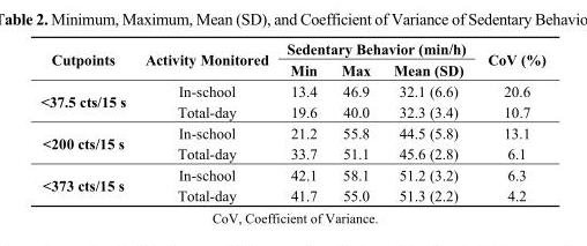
<table><thead><tr><td rowspan="2">Cutpoints</td><td rowspan="2">Activity Monitored</td><td colspan="3">Sedentary Behavior (min/h)</td><td rowspan="2">CoV (%)</td></tr><tr><td>Min</td><td>Max</td><td>Mean (SD)</td></tr></thead><tbody><tr><td rowspan="2">&lt;37.5 cts/15 s</td><td>In-school</td><td>13.4</td><td>46.9</td><td>32.1 (6.6)</td><td>20.6</td></tr><tr><td>Total-day</td><td>19.6</td><td>40.0</td><td>32.3 (3.4)</td><td>10.7</td></tr><tr><td rowspan="2">&lt;200 cts/15 s</td><td>In-school</td><td>21.2</td><td>55.8</td><td>44.5 (5.8)</td><td>13.1</td></tr><tr><td>Total-day</td><td>33.7</td><td>51.1</td><td>45.6 (2.8)</td><td>6.1</td></tr><tr><td rowspan="2">&lt;373 cts/15 s</td><td>In-school</td><td>42.1</td><td>58.1</td><td>51.2 (3.2)</td><td>6.3</td></tr><tr><td>Total-day</td><td>41.7</td><td>55.0</td><td>51.3 (2.2)</td><td>4.2</td></tr></tbody></table>